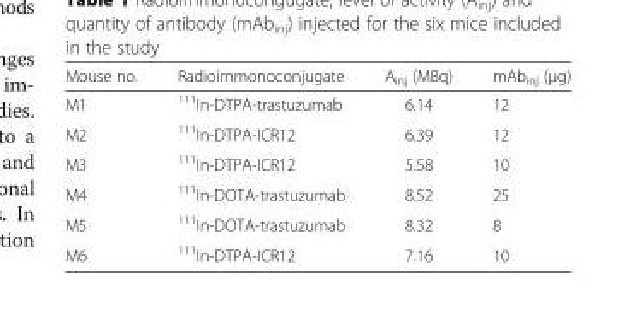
<table><thead><tr><td>Mouse no.</td><td>Radioimmonoconjugate</td><td>A<sub>inj</sub> (MBq)</td><td>mAb<sub>inj</sub> (μg)</td></tr></thead><tbody><tr><td>M1</td><td><sup>111</sup>In-DTPA-trastuzumab</td><td>6.14</td><td>12</td></tr><tr><td>M2</td><td><sup>111</sup>In-DTPA-ICR12</td><td>6.39</td><td>12</td></tr><tr><td>M3</td><td><sup>111</sup>In-DTPA-ICR12</td><td>5.58</td><td>10</td></tr><tr><td>M4</td><td><sup>111</sup>In-DOTA-trastuzumab</td><td>8.52</td><td>25</td></tr><tr><td>M5</td><td><sup>111</sup>In-DOTA-trastuzumab</td><td>8.32</td><td>8</td></tr><tr><td>M6</td><td><sup>111</sup>In-DTPA-ICR12</td><td>7.16</td><td>10</td></tr></tbody></table>